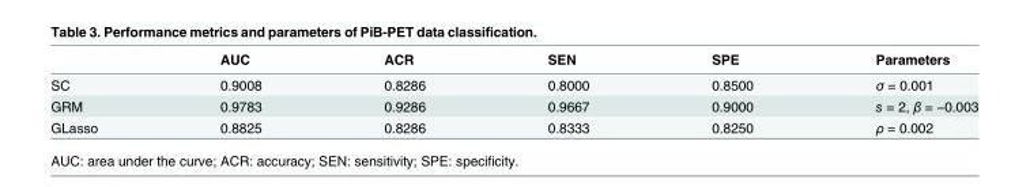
<table><thead><tr><td></td><td>AUC</td><td>ACR</td><td>SEN</td><td>SPE</td><td>Parameters</td></tr></thead><tbody><tr><td>SC</td><td>0.9008</td><td>0.8286</td><td>0.8000</td><td>0.8500</td><td>σ = 0.001</td></tr><tr><td>GRM</td><td>0.9783</td><td>0.9286</td><td>0.9667</td><td>0.9000</td><td>s = 2, β = −0.003</td></tr><tr><td>GLasso</td><td>0.8825</td><td>0.8286</td><td>0.8333</td><td>0.8250</td><td>ρ = 0.002</td></tr></tbody></table>